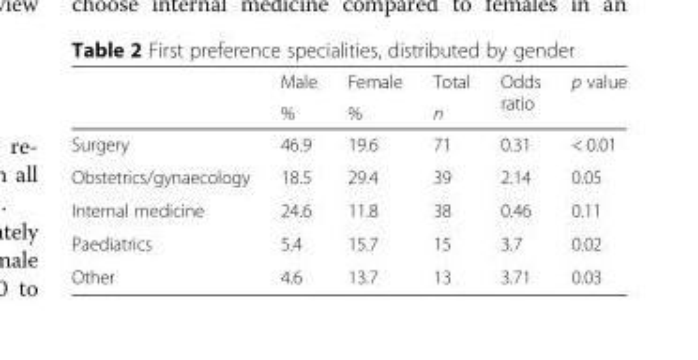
<table><thead><tr><td rowspan="2"></td><td rowspan="2">Male %</td><td rowspan="2">Female %</td><td rowspan="2">Total n</td><td rowspan="2">Odds ratio</td><td rowspan="2">p value</td></tr><tr></tr></thead><tbody><tr><td>Surgery</td><td>46.9</td><td>19.6</td><td>71</td><td>0.31</td><td>&lt; 0.01</td></tr><tr><td>Obstetrics/gynaecology</td><td>18.5</td><td>29.4</td><td>39</td><td>2.14</td><td>0.05</td></tr><tr><td>Internal medicine</td><td>24.6</td><td>11.8</td><td>38</td><td>0.46</td><td>0.11</td></tr><tr><td>Paediatrics</td><td>5.4</td><td>15.7</td><td>15</td><td>3.7</td><td>0.02</td></tr><tr><td>Other</td><td>4.6</td><td>13.7</td><td>13</td><td>3.71</td><td>0.03</td></tr></tbody></table>